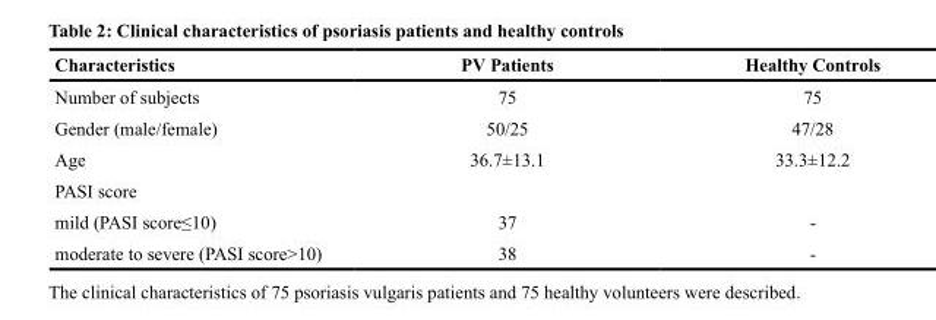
<table><thead><tr><td>Characteristics</td><td>PV Patients</td><td>Healthy Controls</td></tr></thead><tbody><tr><td>Number of subjects</td><td>75</td><td>75</td></tr><tr><td>Gender (male/female)</td><td>50/25</td><td>47/28</td></tr><tr><td>Age</td><td>36.7±13.1</td><td>33.3±12.2</td></tr><tr><td colspan="3">PASI score</td></tr><tr><td>mild (PASI score≤10)</td><td>37</td><td>-</td></tr><tr><td>moderate to severe (PASI score&gt;10)</td><td>38</td><td>-</td></tr></tbody></table>